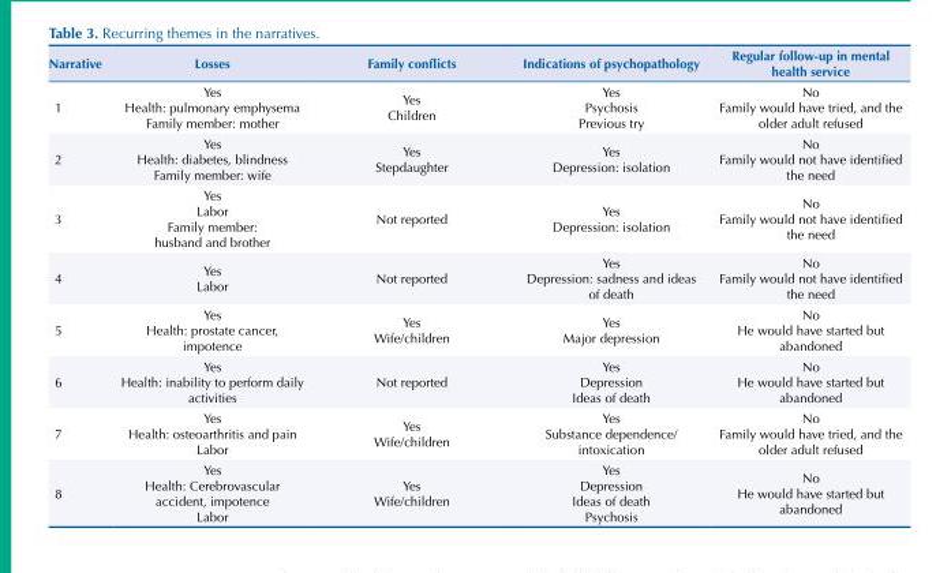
<table><thead><tr><td>Narrative</td><td>Losses</td><td>Family conflicts</td><td>Indications of psychopathology</td><td>Regular follow-up in mental health service</td></tr></thead><tbody><tr><td>1</td><td>Yes Health: pulmonary emphysema Family member: mother</td><td>Yes Children</td><td>Yes Psychosis Previous try</td><td>No Family would have tried, and the older adult refused</td></tr><tr><td>2</td><td>Yes Health: diabetes, blindness Family member: wife</td><td>Yes Stepdaughter</td><td>Yes Depression: isolation</td><td>No Family would not have identified the need</td></tr><tr><td>3</td><td>Yes Labor Family member: husband and brother</td><td>Not reported</td><td>Yes Depression: isolation</td><td>No Family would not have identified the need</td></tr><tr><td>4</td><td>Yes Labor</td><td>Not reported</td><td>Yes Depression: sadness and ideas of death</td><td>No Family would not have identified the need</td></tr><tr><td>5</td><td>Yes Health: prostate cancer, impotence</td><td>Yes Wife/children</td><td>Yes Major depression</td><td>No He would have started but abandoned</td></tr><tr><td>6</td><td>Yes Health: inability to perform daily activities</td><td>Not reported</td><td>Yes Depression Ideas of death</td><td>No He would have started but abandoned</td></tr><tr><td>7</td><td>Yes Health: osteoarthritis and pain Labor</td><td>Yes Wife/children</td><td>Yes Substance dependence/ intoxication</td><td>No Family would have tried, and the older adult refused</td></tr><tr><td>8</td><td>Yes Health: Cerebrovascular accident, impotence Labor</td><td>Yes Wife/children</td><td>Yes Depression Ideas of death Psychosis</td><td>No He would have started but abandoned</td></tr></tbody></table>